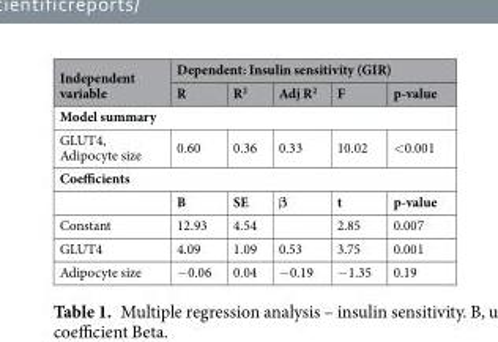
<table><thead><tr><td rowspan="2">Independent variable</td><td colspan="5">Dependent: Insulin sensitivity (GIR)</td></tr><tr><td>R</td><td>R<sup>2</sup></td><td>Adj R<sup>2</sup></td><td>F</td><td>p-value</td></tr></thead><tbody><tr><td colspan="6">Model summary</td></tr><tr><td>GLUT4, Adipocyte size</td><td>0.60</td><td>0.36</td><td>0.33</td><td>10.02</td><td>&lt;0.001</td></tr><tr><td colspan="6">Coefficients</td></tr><tr><td></td><td>B</td><td>SE</td><td>β</td><td>t</td><td>p-value</td></tr><tr><td>Constant</td><td>12.93</td><td>4.54</td><td></td><td>2.85</td><td>0.007</td></tr><tr><td>GLUT4</td><td>4.09</td><td>1.09</td><td>0.53</td><td>3.75</td><td>0.001</td></tr><tr><td>Adipocyte size</td><td>−0.06</td><td>0.04</td><td>−0.19</td><td>−1.35</td><td>0.19</td></tr></tbody></table>